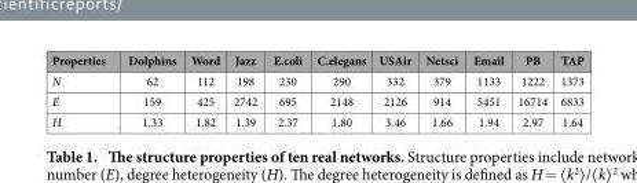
<table><thead><tr><td>Properties</td><td>Dolphins</td><td>Word</td><td>Jazz</td><td>E.coli</td><td>C.elegans</td><td>USAir</td><td>Netsci</td><td>Email</td><td>PB</td><td>TAP</td></tr></thead><tbody><tr><td>N</td><td>62</td><td>112</td><td>198</td><td>230</td><td>290</td><td>332</td><td>379</td><td>1133</td><td>1222</td><td>1373</td></tr><tr><td>E</td><td>159</td><td>425</td><td>2742</td><td>695</td><td>2148</td><td>2126</td><td>914</td><td>5451</td><td>16714</td><td>6833</td></tr><tr><td>H</td><td>1.33</td><td>1.82</td><td>1.39</td><td>2.37</td><td>1.80</td><td>3.46</td><td>1.66</td><td>1.94</td><td>2.97</td><td>1.64</td></tr></tbody></table>